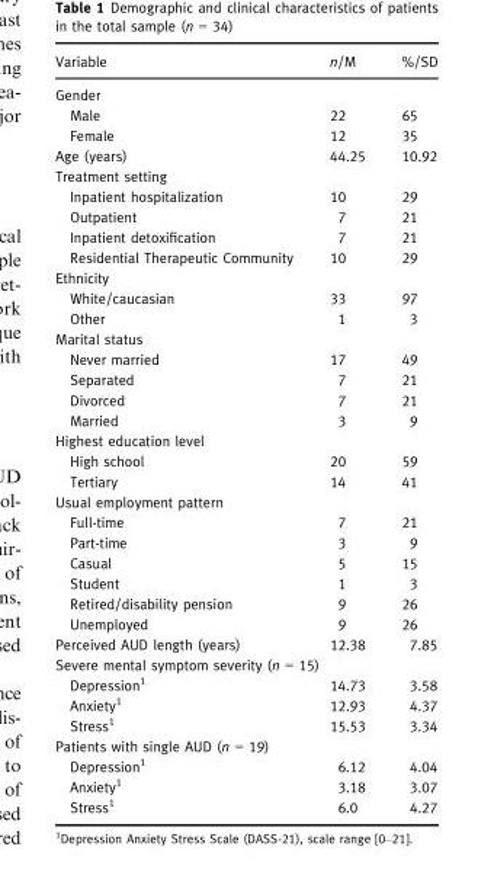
<table><thead><tr><td>Variable</td><td>n/M</td><td>%/SD</td></tr></thead><tbody><tr><td colspan="3">Gender</td></tr><tr><td>Male</td><td>22</td><td>65</td></tr><tr><td>Female</td><td>12</td><td>35</td></tr><tr><td>Age (years)</td><td>44.25</td><td>10.92</td></tr><tr><td colspan="3">Treatment setting</td></tr><tr><td>Inpatient hospitalization</td><td>10</td><td>29</td></tr><tr><td>Outpatient</td><td>7</td><td>21</td></tr><tr><td>Inpatient detoxification</td><td>7</td><td>21</td></tr><tr><td>Residential Therapeutic Community</td><td>10</td><td>29</td></tr><tr><td colspan="3">Ethnicity</td></tr><tr><td>White/caucasian</td><td>33</td><td>97</td></tr><tr><td>Other</td><td>1</td><td>3</td></tr><tr><td colspan="3">Marital status</td></tr><tr><td>Never married</td><td>17</td><td>49</td></tr><tr><td>Separated</td><td>7</td><td>21</td></tr><tr><td>Divorced</td><td>7</td><td>21</td></tr><tr><td>Married</td><td>3</td><td>9</td></tr><tr><td colspan="3">Highest education level</td></tr><tr><td>High school</td><td>20</td><td>59</td></tr><tr><td>Tertiary</td><td>14</td><td>41</td></tr><tr><td colspan="3">Usual employment pattern</td></tr><tr><td>Full-time</td><td>7</td><td>21</td></tr><tr><td>Part-time</td><td>3</td><td>9</td></tr><tr><td>Casual</td><td>5</td><td>15</td></tr><tr><td>Student</td><td>1</td><td>3</td></tr><tr><td>Retired/disability pension</td><td>9</td><td>26</td></tr><tr><td>Unemployed</td><td>9</td><td>26</td></tr><tr><td>Perceived AUD length (years)</td><td>12.38</td><td>7.85</td></tr><tr><td colspan="3">Severe mental symptom severity (n = 15)</td></tr><tr><td>Depression1</td><td>14.73</td><td>3.58</td></tr><tr><td>Anxiety1</td><td>12.93</td><td>4.37</td></tr><tr><td>Stress1</td><td>15.53</td><td>3.34</td></tr><tr><td colspan="3">Patients with single AUD (n = 19)</td></tr><tr><td>Depression1</td><td>6.12</td><td>4.04</td></tr><tr><td>Anxiety1</td><td>3.18</td><td>3.07</td></tr><tr><td>Stress1</td><td>6.0</td><td>4.27</td></tr></tbody></table>